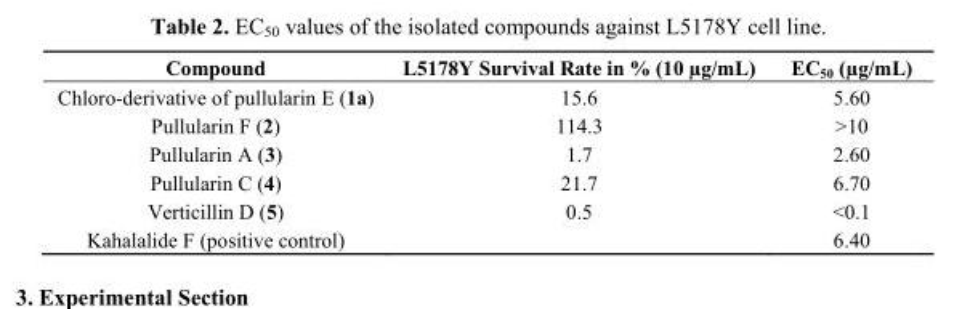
<table><thead><tr><td>Compound</td><td>L5178Y Survival Rate in % (10 µg/mL)</td><td>EC<sub>50</sub> (µg/mL)</td></tr></thead><tbody><tr><td>Chloro-derivative of pullularin E (1a)</td><td>15.6</td><td>5.60</td></tr><tr><td>Pullularin F (2)</td><td>114.3</td><td>&gt;10</td></tr><tr><td>Pullularin A (3)</td><td>1.7</td><td>2.60</td></tr><tr><td>Pullularin C (4)</td><td>21.7</td><td>6.70</td></tr><tr><td>Verticillin D (5)</td><td>0.5</td><td>&lt;0.1</td></tr><tr><td>Kahalalide F (positive control)</td><td></td><td>6.40</td></tr></tbody></table>